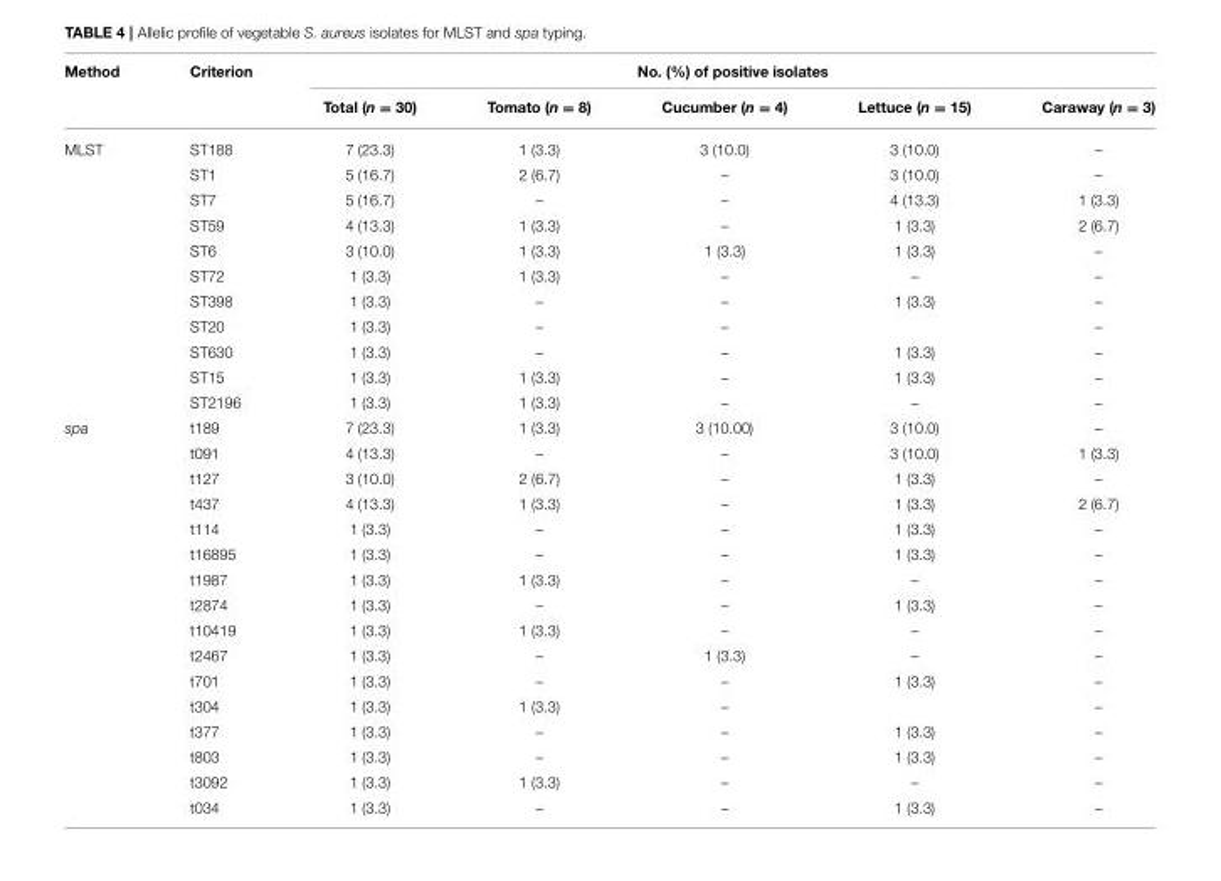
<table><thead><tr><td rowspan="2">Method</td><td rowspan="2">Criterion</td><td colspan="5">No. (%) of positive isolates</td></tr><tr><td>Total (n = 30)</td><td>Tomato (n = 8)</td><td>Cucumber (n = 4)</td><td>Lettuce (n = 15)</td><td>Caraway (n = 3)</td></tr></thead><tbody><tr><td rowspan="11">MLST</td><td>ST188</td><td>7 (23.3)</td><td>1 (3.3)</td><td>3 (10.0)</td><td>3 (10.0)</td><td>–</td></tr><tr><td>ST1</td><td>5 (16.7)</td><td>2 (6.7)</td><td>–</td><td>3 (10.0)</td><td>–</td></tr><tr><td>ST7</td><td>5 (16.7)</td><td>–</td><td>–</td><td>4 (13.3)</td><td>1 (3.3)</td></tr><tr><td>ST59</td><td>4 (13.3)</td><td>1 (3.3)</td><td>–</td><td>1 (3.3)</td><td>2 (6.7)</td></tr><tr><td>ST6</td><td>3 (10.0)</td><td>1 (3.3)</td><td>1 (3.3)</td><td>1 (3.3)</td><td>–</td></tr><tr><td>ST72</td><td>1 (3.3)</td><td>1 (3.3)</td><td>–</td><td>–</td><td>–</td></tr><tr><td>ST398</td><td>1 (3.3)</td><td>–</td><td>–</td><td>1 (3.3)</td><td>–</td></tr><tr><td>ST20</td><td>1 (3.3)</td><td>–</td><td>–</td><td></td><td>–</td></tr><tr><td>ST630</td><td>1 (3.3)</td><td>–</td><td>–</td><td>1 (3.3)</td><td>–</td></tr><tr><td>ST15</td><td>1 (3.3)</td><td>1 (3.3)</td><td>–</td><td>1 (3.3)</td><td>–</td></tr><tr><td>ST2196</td><td>1 (3.3)</td><td>1 (3.3)</td><td>–</td><td>–</td><td>–</td></tr><tr><td rowspan="16">spa</td><td>t189</td><td>7 (23.3)</td><td>1 (3.3)</td><td>3 (10.00)</td><td>3 (10.0)</td><td>–</td></tr><tr><td>t091</td><td>4 (13.3)</td><td>–</td><td>–</td><td>3 (10.0)</td><td>1 (3.3)</td></tr><tr><td>t127</td><td>3 (10.0)</td><td>2 (6.7)</td><td>–</td><td>1 (3.3)</td><td>–</td></tr><tr><td>t437</td><td>4 (13.3)</td><td>1 (3.3)</td><td>–</td><td>1 (3.3)</td><td>2 (6.7)</td></tr><tr><td>t114</td><td>1 (3.3)</td><td>–</td><td>–</td><td>1 (3.3)</td><td>–</td></tr><tr><td>t16895</td><td>1 (3.3)</td><td>–</td><td>–</td><td>1 (3.3)</td><td>–</td></tr><tr><td>t1987</td><td>1 (3.3)</td><td>1 (3.3)</td><td>–</td><td>–</td><td>–</td></tr><tr><td>t2874</td><td>1 (3.3)</td><td>–</td><td>–</td><td>1 (3.3)</td><td>–</td></tr><tr><td>t10419</td><td>1 (3.3)</td><td>1 (3.3)</td><td>–</td><td>–</td><td>–</td></tr><tr><td>t2467</td><td>1 (3.3)</td><td>–</td><td>1 (3.3)</td><td>–</td><td>–</td></tr><tr><td>t701</td><td>1 (3.3)</td><td>–</td><td>–</td><td>1 (3.3)</td><td>–</td></tr><tr><td>t304</td><td>1 (3.3)</td><td>1 (3.3)</td><td>–</td><td></td><td>–</td></tr><tr><td>t377</td><td>1 (3.3)</td><td>–</td><td>–</td><td>1 (3.3)</td><td>–</td></tr><tr><td>t803</td><td>1 (3.3)</td><td>–</td><td>–</td><td>1 (3.3)</td><td>–</td></tr><tr><td>t3092</td><td>1 (3.3)</td><td>1 (3.3)</td><td>–</td><td>–</td><td>–</td></tr><tr><td>t034</td><td>1 (3.3)</td><td>–</td><td>–</td><td>1 (3.3)</td><td>–</td></tr></tbody></table>